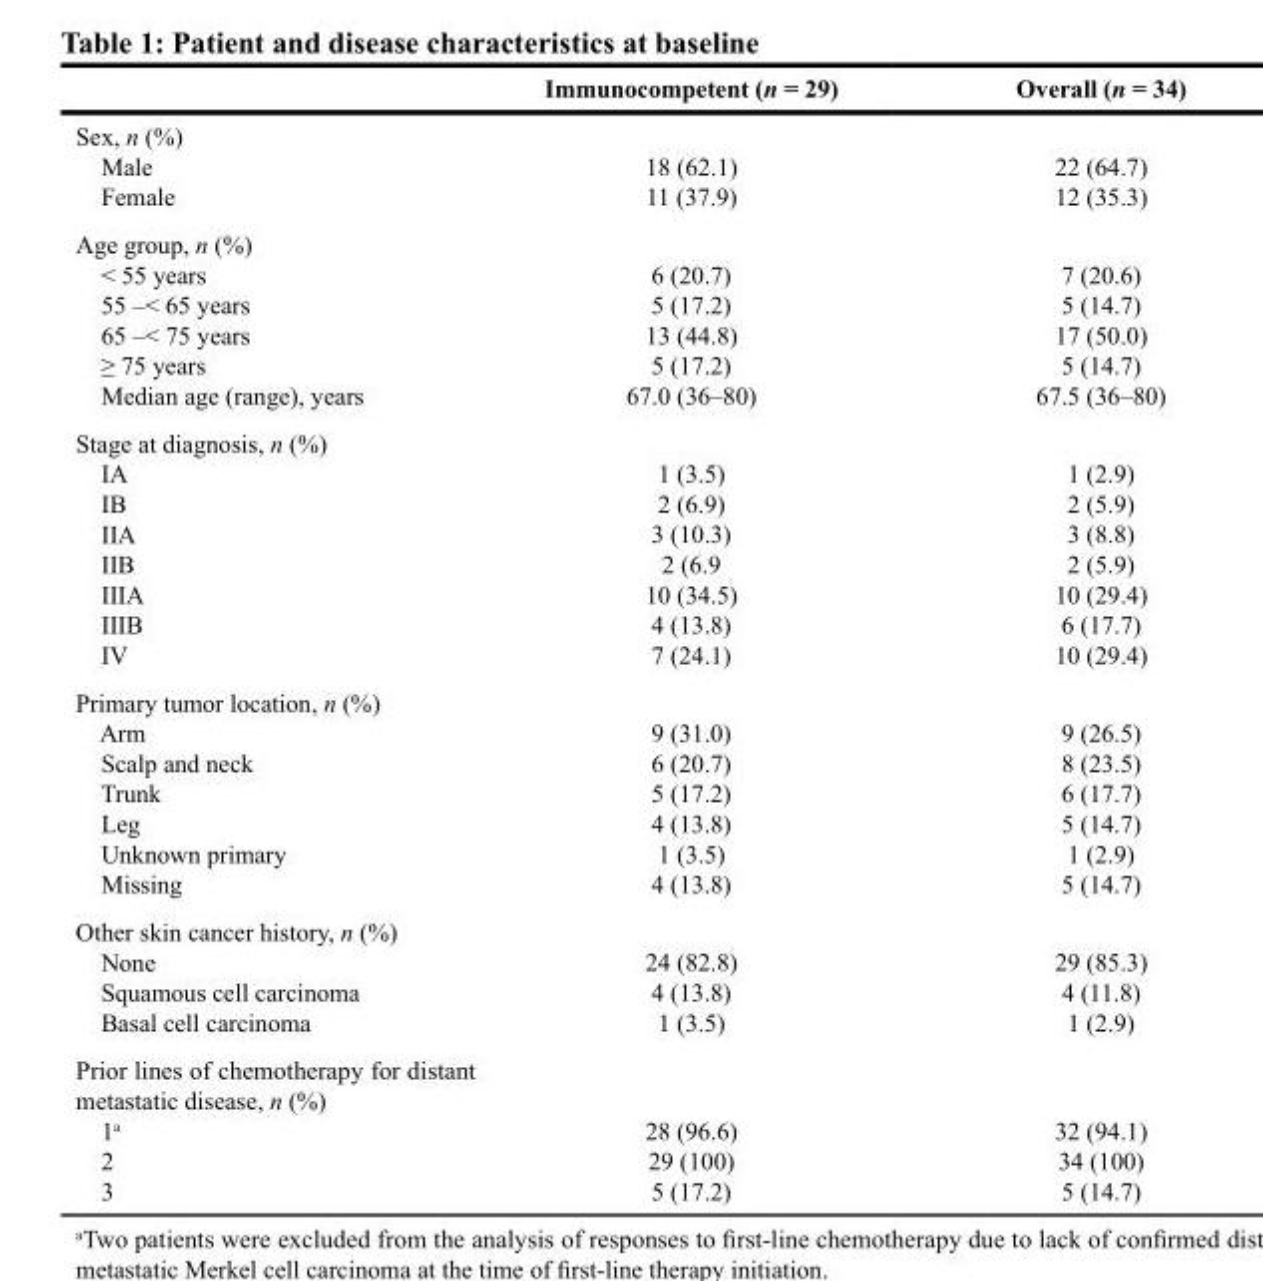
<table><thead><tr><td></td><td>Immunocompetent (n = 29)</td><td>Overall (n = 34)</td></tr></thead><tbody><tr><td>Sex, n (%) Male Female</td><td>18 (62.1) 11 (37.9)</td><td>22 (64.7) 12 (35.3)</td></tr><tr><td>Age group, n (%) &lt; 55 years 55 –&lt; 65 years 65 –&lt; 75 years ≥ 75 years Median age (range), years</td><td>6 (20.7) 5 (17.2) 13 (44.8) 5 (17.2) 67.0 (36–80)</td><td>7 (20.6) 5 (14.7) 17 (50.0) 5 (14.7) 67.5 (36–80)</td></tr><tr><td>Stage at diagnosis, n (%) IA IB IIA IIB IIIA IIIB IV</td><td>1 (3.5) 2 (6.9) 3 (10.3) 2 (6.9 10 (34.5) 4 (13.8) 7 (24.1)</td><td>1 (2.9) 2 (5.9) 3 (8.8) 2 (5.9) 10 (29.4) 6 (17.7) 10 (29.4)</td></tr><tr><td>Primary tumor location, n (%) Arm Scalp and neck Trunk Leg Unknown primary Missing</td><td>9 (31.0) 6 (20.7) 5 (17.2) 4 (13.8) 1 (3.5) 4 (13.8)</td><td>9 (26.5) 8 (23.5) 6 (17.7) 5 (14.7) 1 (2.9) 5 (14.7)</td></tr><tr><td>Other skin cancer history, n (%) None Squamous cell carcinoma Basal cell carcinoma</td><td>24 (82.8) 4 (13.8) 1 (3.5)</td><td>29 (85.3) 4 (11.8) 1 (2.9)</td></tr><tr><td>Prior lines of chemotherapy for distant metastatic disease, n (%) 1<sup>a</sup> 2 3</td><td>28 (96.6) 29 (100) 5 (17.2)</td><td>32 (94.1) 34 (100) 5 (14.7)</td></tr></tbody></table>